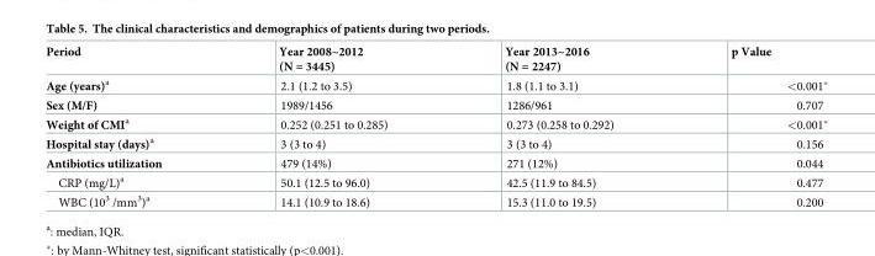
<table><thead><tr><td>Period</td><td>Year 2008~2012 (N = 3445)</td><td>Year 2013~2016 (N = 2247)</td><td>p Value</td></tr></thead><tbody><tr><td>Age (years)<sup>a</sup></td><td>2.1 (1.2 to 3.5)</td><td>1.8 (1.1 to 3.1)</td><td>&lt;0.001*</td></tr><tr><td>Sex (M/F)</td><td>1989/1456</td><td>1286/961</td><td>0.707</td></tr><tr><td>Weight of CMI<sup>a</sup></td><td>0.252 (0.251 to 0.285)</td><td>0.273 (0.258 to 0.292)</td><td>&lt;0.001*</td></tr><tr><td>Hospital stay (days)<sup>a</sup></td><td>3 (3 to 4)</td><td>3 (3 to 4)</td><td>0.156</td></tr><tr><td>Antibiotics utilization</td><td>479 (14%)</td><td>271 (12%)</td><td>0.044</td></tr><tr><td>CRP (mg/L)<sup>a</sup></td><td>50.1 (12.5 to 96.0)</td><td>42.5 (11.9 to 84.5)</td><td>0.477</td></tr><tr><td>WBC (10<sup>3</sup> /mm<sup>3</sup>)<sup>a</sup></td><td>14.1 (10.9 to 18.6)</td><td>15.3 (11.0 to 19.5)</td><td>0.200</td></tr></tbody></table>